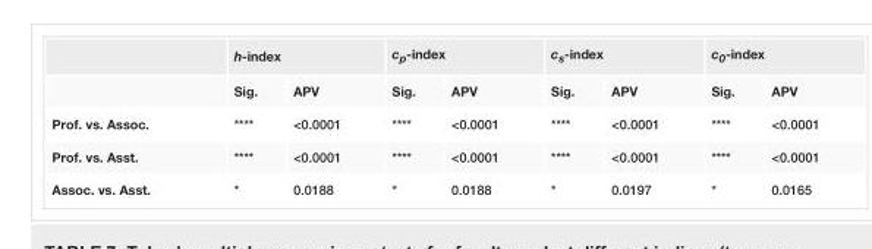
<table><thead><tr><td rowspan="2"></td><td colspan="2">h-index</td><td colspan="2">c<sub>p</sub>-index</td><td colspan="2">c<sub>s</sub>-index</td><td colspan="2">c<sub>0</sub>-index</td></tr><tr><td>Sig.</td><td>APV</td><td>Sig.</td><td>APV</td><td>Sig.</td><td>APV</td><td>Sig.</td><td>APV</td></tr></thead><tbody><tr><td>Prof. vs. Assoc.</td><td>****</td><td>&lt;0.0001</td><td>****</td><td>&lt;0.0001</td><td>****</td><td>&lt;0.0001</td><td>****</td><td>&lt;0.0001</td></tr><tr><td>Prof. vs. Asst.</td><td>****</td><td>&lt;0.0001</td><td>****</td><td>&lt;0.0001</td><td>****</td><td>&lt;0.0001</td><td>****</td><td>&lt;0.0001</td></tr><tr><td>Assoc. vs. Asst.</td><td>*</td><td>0.0188</td><td>*</td><td>0.0188</td><td>*</td><td>0.0197</td><td>*</td><td>0.0165</td></tr></tbody></table>